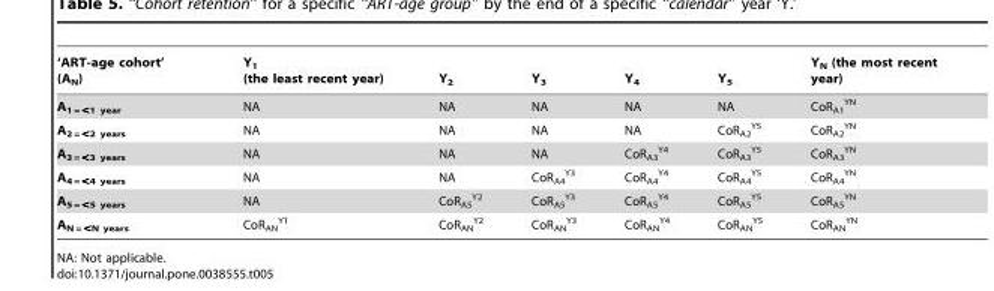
<table><thead><tr><td>‘ART-age cohort’ (A<sub>N</sub>)</td><td>Y<sub>1</sub> (the least recent year)</td><td>Y<sub>2</sub></td><td>Y<sub>3</sub></td><td>Y<sub>4</sub></td><td>Y<sub>5</sub></td><td>Y<sub>N</sub> (the most recent year)</td></tr></thead><tbody><tr><td>A<sub>1 = &lt;1 year</sub></td><td>NA</td><td>NA</td><td>NA</td><td>NA</td><td>NA</td><td>CoR<sub>A1</sub> <sup>YN</sup></td></tr><tr><td>A<sub>2 = &lt;2 years</sub></td><td>NA</td><td>NA</td><td>NA</td><td>NA</td><td>CoR<sub>A2</sub> <sup>Y5</sup></td><td>CoR<sub>A2</sub> <sup>YN</sup></td></tr><tr><td>A<sub>3 = &lt;3 years</sub></td><td>NA</td><td>NA</td><td>NA</td><td>CoR<sub>A3</sub> <sup>Y4</sup></td><td>CoR<sub>A3</sub> <sup>Y5</sup></td><td>CoR<sub>A3</sub> <sup>YN</sup></td></tr><tr><td>A<sub>4 = &lt;4 years</sub></td><td>NA</td><td>NA</td><td>CoR<sub>A4</sub> <sup>Y3</sup></td><td>CoR<sub>A4</sub> <sup>Y4</sup></td><td>CoR<sub>A4</sub> <sup>Y5</sup></td><td>CoR<sub>A4</sub> <sup>YN</sup></td></tr><tr><td>A<sub>5 = &lt;5 years</sub></td><td>NA</td><td>CoR<sub>A5</sub> <sup>Y2</sup></td><td>CoR<sub>A5</sub> <sup>Y3</sup></td><td>CoR<sub>A5</sub> <sup>Y4</sup></td><td>CoR<sub>A5</sub> <sup>Y5</sup></td><td>CoR<sub>A5</sub> <sup>YN</sup></td></tr><tr><td>A<sub>N = &lt;N years</sub></td><td>CoR<sub>AN</sub> <sup>Y1</sup></td><td>CoR<sub>AN</sub> <sup>Y2</sup></td><td>CoR<sub>AN</sub> <sup>Y3</sup></td><td>CoR<sub>AN</sub> <sup>Y4</sup></td><td>CoR<sub>AN</sub> <sup>Y5</sup></td><td>CoR<sub>AN</sub> <sup>YN</sup></td></tr></tbody></table>